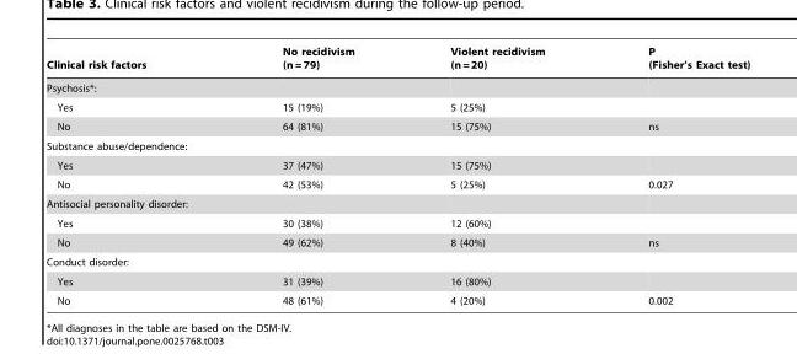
<table><thead><tr><td>Clinical risk factors</td><td>No recidivism (n = 79)</td><td>Violent recidivism (n = 20)</td><td>P (Fisher’s Exact test)</td></tr></thead><tbody><tr><td colspan="4">Psychosis*:</td></tr><tr><td>Yes</td><td>15 (19%)</td><td>5 (25%)</td><td></td></tr><tr><td>No</td><td>64 (81%)</td><td>15 (75%)</td><td>ns</td></tr><tr><td colspan="4">Substance abuse/dependence:</td></tr><tr><td>Yes</td><td>37 (47%)</td><td>15 (75%)</td><td></td></tr><tr><td>No</td><td>42 (53%)</td><td>5 (25%)</td><td>0.027</td></tr><tr><td colspan="4">Antisocial personality disorder:</td></tr><tr><td>Yes</td><td>30 (38%)</td><td>12 (60%)</td><td></td></tr><tr><td>No</td><td>49 (62%)</td><td>8 (40%)</td><td>ns</td></tr><tr><td colspan="4">Conduct disorder:</td></tr><tr><td>Yes</td><td>31 (39%)</td><td>16 (80%)</td><td></td></tr><tr><td>No</td><td>48 (61%)</td><td>4 (20%)</td><td>0.002</td></tr></tbody></table>